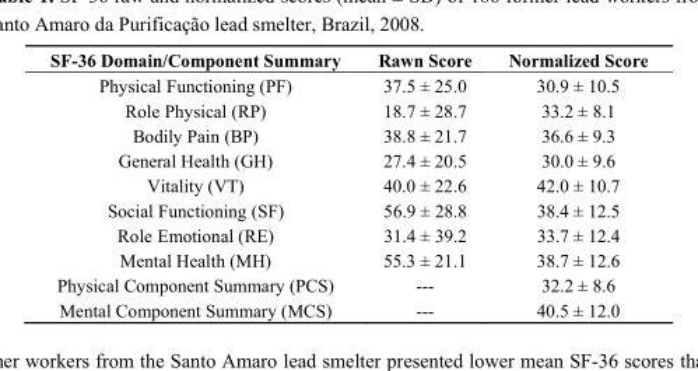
<table><thead><tr><td>SF-36 Domain/Component Summary</td><td>Rawn Score</td><td>Normalized Score</td></tr></thead><tbody><tr><td>Physical Functioning (PF)</td><td>37.5 ± 25.0</td><td>30.9 ± 10.5</td></tr><tr><td>Role Physical (RP)</td><td>18.7 ± 28.7</td><td>33.2 ± 8.1</td></tr><tr><td>Bodily Pain (BP)</td><td>38.8 ± 21.7</td><td>36.6 ± 9.3</td></tr><tr><td>General Health (GH)</td><td>27.4 ± 20.5</td><td>30.0 ± 9.6</td></tr><tr><td>Vitality (VT)</td><td>40.0 ± 22.6</td><td>42.0 ± 10.7</td></tr><tr><td>Social Functioning (SF)</td><td>56.9 ± 28.8</td><td>38.4 ± 12.5</td></tr><tr><td>Role Emotional (RE)</td><td>31.4 ± 39.2</td><td>33.7 ± 12.4</td></tr><tr><td>Mental Health (MH)</td><td>55.3 ± 21.1</td><td>38.7 ± 12.6</td></tr><tr><td>Physical Component Summary (PCS)</td><td>---</td><td>32.2 ± 8.6</td></tr><tr><td>Mental Component Summary (MCS)</td><td>---</td><td>40.5 ± 12.0</td></tr></tbody></table>